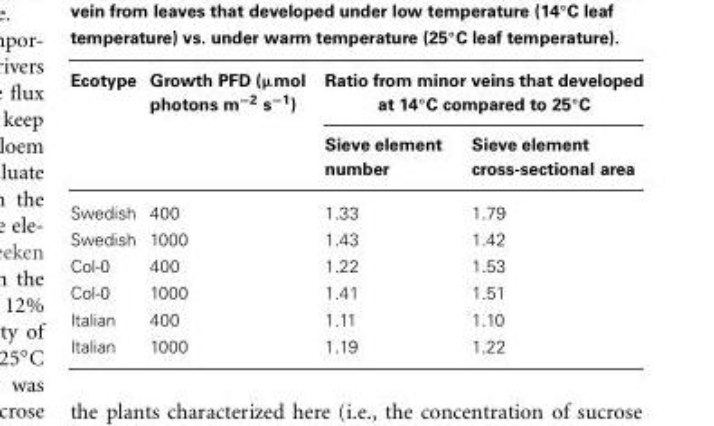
<table><thead><tr><td rowspan="2">Ecotype</td><td rowspan="2">Growth PFD (µmol photons m<sup>−2</sup> s<sup>−1</sup>)</td><td colspan="2">Ratio from minor veins that developed at 14◦C compared to 25◦C</td></tr><tr><td>Sieve element number</td><td>Sieve element cross-sectional area</td></tr></thead><tbody><tr><td>Swedish</td><td>400</td><td>1.33</td><td>1.79</td></tr><tr><td>Swedish</td><td>1000</td><td>1.43</td><td>1.42</td></tr><tr><td>Col-0</td><td>400</td><td>1.22</td><td>1.53</td></tr><tr><td>Col-0</td><td>1000</td><td>1.41</td><td>1.51</td></tr><tr><td>Italian</td><td>400</td><td>1.11</td><td>1.10</td></tr><tr><td>Italian</td><td>1000</td><td>1.19</td><td>1.22</td></tr></tbody></table>